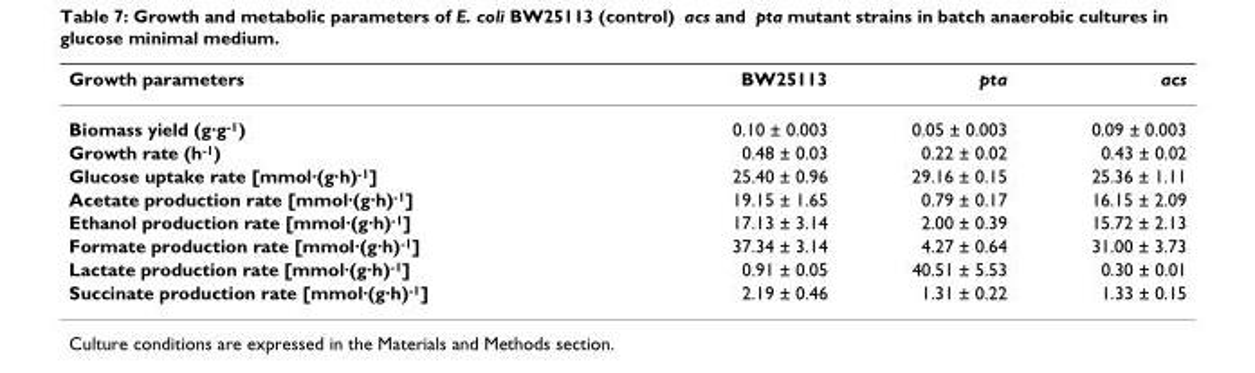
<table><thead><tr><td>Growth parameters</td><td>BW25113</td><td>pta</td><td>acs</td></tr></thead><tbody><tr><td>Biomass yield (g·g<sup>-1</sup>)</td><td>0.10 ± 0.003</td><td>0.05 ± 0.003</td><td>0.09 ± 0.003</td></tr><tr><td>Growth rate (h<sup>-1</sup>)</td><td>0.48 ± 0.03</td><td>0.22 ± 0.02</td><td>0.43 ± 0.02</td></tr><tr><td>Glucose uptake rate [mmol·(g·h)<sup>-1</sup>]</td><td>25.40 ± 0.96</td><td>29.16 ± 0.15</td><td>25.36 ± 1.11</td></tr><tr><td>Acetate production rate [mmol·(g·h)<sup>-1</sup>]</td><td>19.15 ± 1.65</td><td>0.79 ± 0.17</td><td>16.15 ± 2.09</td></tr><tr><td>Ethanol production rate [mmol·(g·h)<sup>-1</sup>]</td><td>17.13 ± 3.14</td><td>2.00 ± 0.39</td><td>15.72 ± 2.13</td></tr><tr><td>Formate production rate [mmol·(g·h)<sup>-1</sup>]</td><td>37.34 ± 3.14</td><td>4.27 ± 0.64</td><td>31.00 ± 3.73</td></tr><tr><td>Lactate production rate [mmol·(g·h)<sup>-1</sup>]</td><td>0.91 ± 0.05</td><td>40.51 ± 5.53</td><td>0.30 ± 0.01</td></tr><tr><td>Succinate production rate [mmol·(g·h)<sup>-1</sup>]</td><td>2.19 ± 0.46</td><td>1.31 ± 0.22</td><td>1.33 ± 0.15</td></tr></tbody></table>